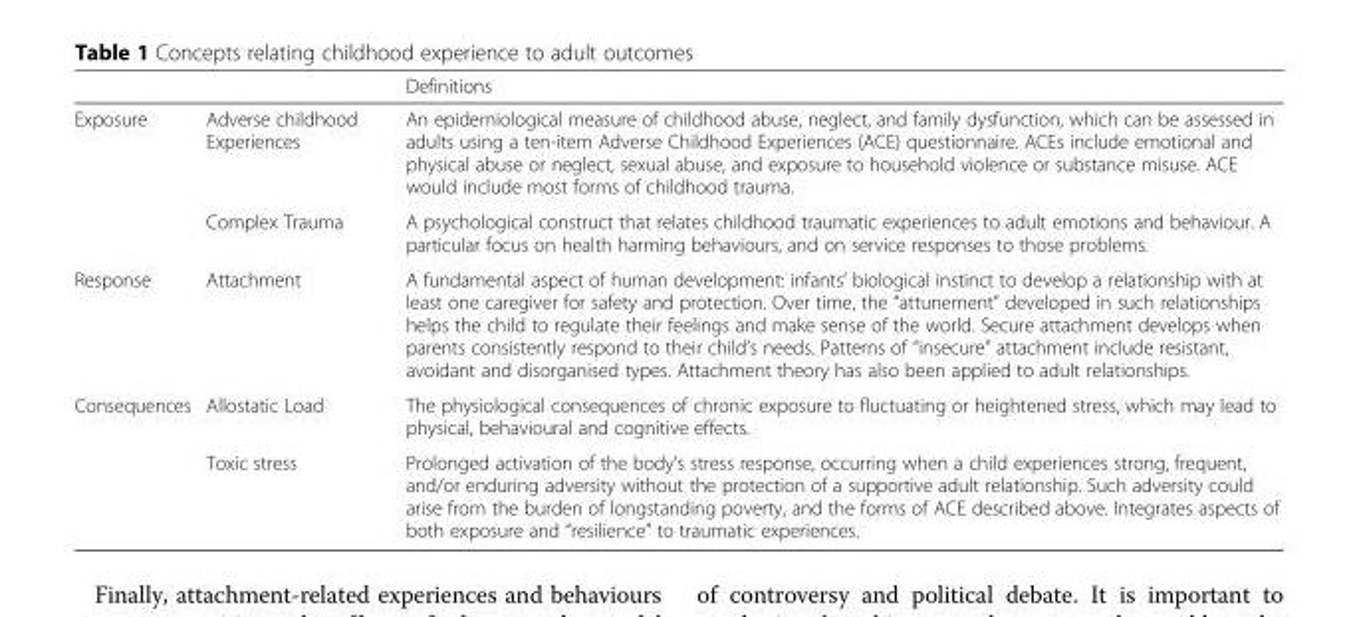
<table><thead><tr><td></td><td></td><td>Definitions</td></tr></thead><tbody><tr><td rowspan="2">Exposure</td><td>Adverse childhood Experiences</td><td>An epidemiological measure of childhood abuse, neglect, and family dysfunction, which can be assessed in adults using a ten-item Adverse Childhood Experiences (ACE) questionnaire. ACEs include emotional and physical abuse or neglect, sexual abuse, and exposure to household violence or substance misuse. ACE would include most forms of childhood trauma.</td></tr><tr><td>Complex Trauma</td><td>A psychological construct that relates childhood traumatic experiences to adult emotions and behaviour. A particular focus on health harming behaviours, and on service responses to those problems.</td></tr><tr><td>Response</td><td>Attachment</td><td>A fundamental aspect of human development: infants’ biological instinct to develop a relationship with at least one caregiver for safety and protection. Over time, the “attunement” developed in such relationships helps the child to regulate their feelings and make sense of the world. Secure attachment develops when parents consistently respond to their child’s needs. Patterns of “insecure” attachment include resistant, avoidant and disorganised types. Attachment theory has also been applied to adult relationships.</td></tr><tr><td rowspan="2">Consequences</td><td>Allostatic Load</td><td>The physiological consequences of chronic exposure to fluctuating or heightened stress, which may lead to physical, behavioural and cognitive effects.</td></tr><tr><td>Toxic stress</td><td>Prolonged activation of the body’s stress response, occurring when a child experiences strong, frequent, and/or enduring adversity without the protection of a supportive adult relationship. Such adversity could arise from the burden of longstanding poverty, and the forms of ACE described above. Integrates aspects of both exposure and “resilience” to traumatic experiences.</td></tr></tbody></table>